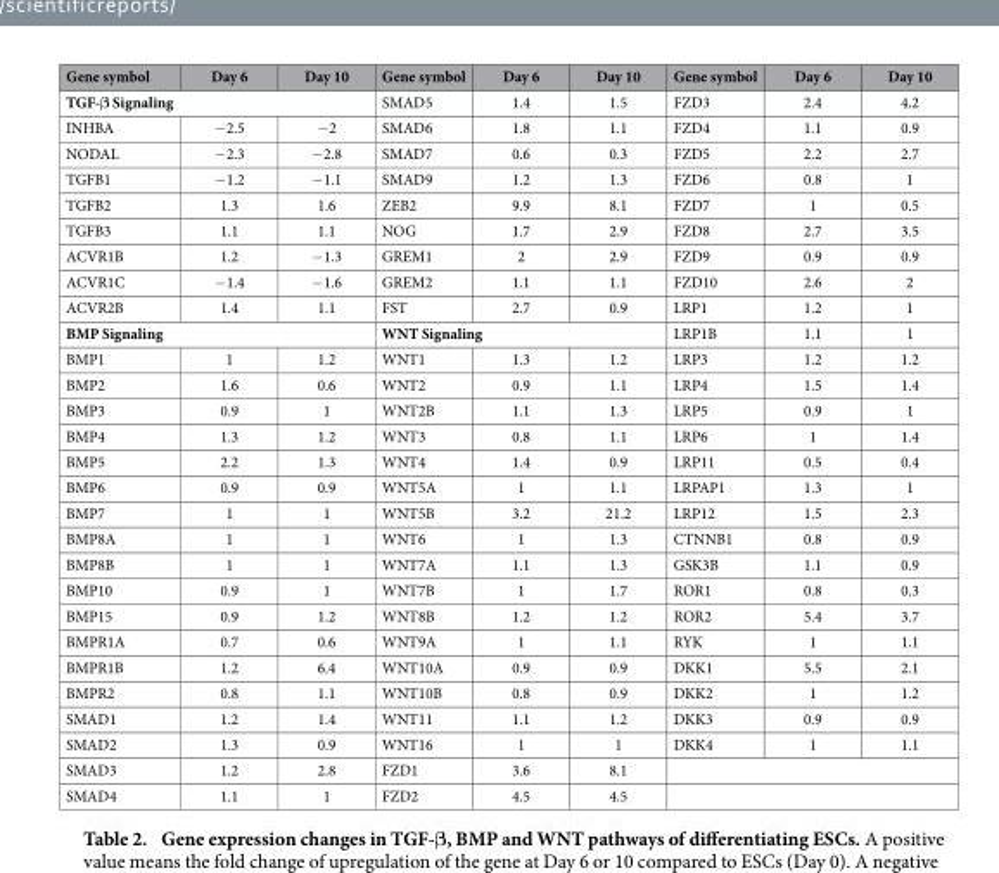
<table><thead><tr><td>Gene symbol</td><td>Day 6</td><td>Day 10</td><td>Gene symbol</td><td>Day 6</td><td>Day 10</td><td>Gene symbol</td><td>Day 6</td><td>Day 10</td></tr></thead><tbody><tr><td colspan="3">TGF-β Signaling</td><td>SMAD5</td><td>1.4</td><td>1.5</td><td>FZD3</td><td>2.4</td><td>4.2</td></tr><tr><td>INHBA</td><td>− 2.5</td><td>− 2</td><td>SMAD6</td><td>1.8</td><td>1.1</td><td>FZD4</td><td>1.1</td><td>0.9</td></tr><tr><td>NODAL</td><td>− 2.3</td><td>− 2.8</td><td>SMAD7</td><td>0.6</td><td>0.3</td><td>FZD5</td><td>2.2</td><td>2.7</td></tr><tr><td>TGFB1</td><td>− 1.2</td><td>− 1.1</td><td>SMAD9</td><td>1.2</td><td>1.3</td><td>FZD6</td><td>0.8</td><td>1</td></tr><tr><td>TGFB2</td><td>1.3</td><td>1.6</td><td>ZEB2</td><td>9.9</td><td>8.1</td><td>FZD7</td><td>1</td><td>0.5</td></tr><tr><td>TGFB3</td><td>1.1</td><td>1.1</td><td>NOG</td><td>1.7</td><td>2.9</td><td>FZD8</td><td>2.7</td><td>3.5</td></tr><tr><td>ACVR1B</td><td>1.2</td><td>− 1.3</td><td>GREM1</td><td>2</td><td>2.9</td><td>FZD9</td><td>0.9</td><td>0.9</td></tr><tr><td>ACVR1C</td><td>− 1.4</td><td>− 1.6</td><td>GREM2</td><td>1.1</td><td>1.1</td><td>FZD10</td><td>2.6</td><td>2</td></tr><tr><td>ACVR2B</td><td>1.4</td><td>1.1</td><td>FST</td><td>2.7</td><td>0.9</td><td>LRP1</td><td>1.2</td><td>1</td></tr><tr><td colspan="3">BMP Signaling</td><td colspan="3">WNT Signaling</td><td>LRP1B</td><td>1.1</td><td>1</td></tr><tr><td>BMP1</td><td>1</td><td>1.2</td><td>WNT1</td><td>1.3</td><td>1.2</td><td>LRP3</td><td>1.2</td><td>1.2</td></tr><tr><td>BMP2</td><td>1.6</td><td>0.6</td><td>WNT2</td><td>0.9</td><td>1.1</td><td>LRP4</td><td>1.5</td><td>1.4</td></tr><tr><td>BMP3</td><td>0.9</td><td>1</td><td>WNT2B</td><td>1.1</td><td>1.3</td><td>LRP5</td><td>0.9</td><td>1</td></tr><tr><td>BMP4</td><td>1.3</td><td>1.2</td><td>WNT3</td><td>0.8</td><td>1.1</td><td>LRP6</td><td>1</td><td>1.4</td></tr><tr><td>BMP5</td><td>2.2</td><td>1.3</td><td>WNT4</td><td>1.4</td><td>0.9</td><td>LRP11</td><td>0.5</td><td>0.4</td></tr><tr><td>BMP6</td><td>0.9</td><td>0.9</td><td>WNT5A</td><td>1</td><td>1.1</td><td>LRPAP1</td><td>1.3</td><td>1</td></tr><tr><td>BMP7</td><td>1</td><td>1</td><td>WNT5B</td><td>3.2</td><td>21.2</td><td>LRP12</td><td>1.5</td><td>2.3</td></tr><tr><td>BMP8A</td><td>1</td><td>1</td><td>WNT6</td><td>1</td><td>1.3</td><td>CTNNB1</td><td>0.8</td><td>0.9</td></tr><tr><td>BMP8B</td><td>1</td><td>1</td><td>WNT7A</td><td>1.1</td><td>1.3</td><td>GSK3B</td><td>1.1</td><td>0.9</td></tr><tr><td>BMP10</td><td>0.9</td><td>1</td><td>WNT7B</td><td>1</td><td>1.7</td><td>ROR1</td><td>0.8</td><td>0.3</td></tr><tr><td>BMP15</td><td>0.9</td><td>1.2</td><td>WNT8B</td><td>1.2</td><td>1.2</td><td>ROR2</td><td>5.4</td><td>3.7</td></tr><tr><td>BMPR1A</td><td>0.7</td><td>0.6</td><td>WNT9A</td><td>1</td><td>1.1</td><td>RYK</td><td>1</td><td>1.1</td></tr><tr><td>BMPR1B</td><td>1.2</td><td>6.4</td><td>WNT10A</td><td>0.9</td><td>0.9</td><td>DKK1</td><td>5.5</td><td>2.1</td></tr><tr><td>BMPR2</td><td>0.8</td><td>1.1</td><td>WNT10B</td><td>0.8</td><td>0.9</td><td>DKK2</td><td>1</td><td>1.2</td></tr><tr><td>SMAD1</td><td>1.2</td><td>1.4</td><td>WNT11</td><td>1.1</td><td>1.2</td><td>DKK3</td><td>0.9</td><td>0.9</td></tr><tr><td>SMAD2</td><td>1.3</td><td>0.9</td><td>WNT16</td><td>1</td><td>1</td><td>DKK4</td><td>1</td><td>1.1</td></tr><tr><td>SMAD3</td><td>1.2</td><td>2.8</td><td>FZD1</td><td>3.6</td><td>8.1</td><td colspan="3"></td></tr><tr><td>SMAD4</td><td>1.1</td><td>1</td><td>FZD2</td><td>4.5</td><td>4.5</td><td colspan="3"></td></tr></tbody></table>